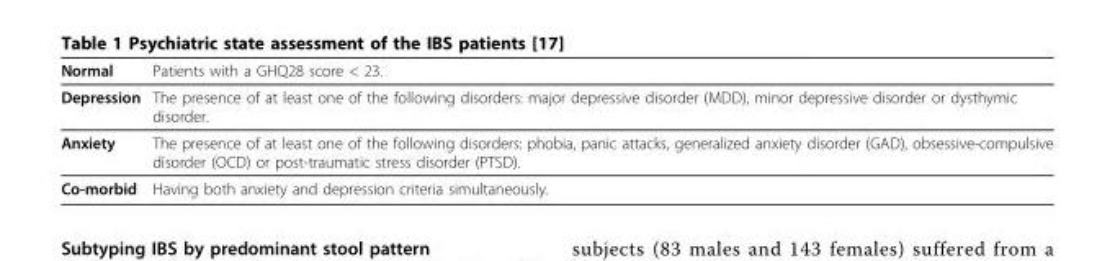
<table><thead><tr><td>Normal</td><td>Patients with a GHQ28 score &lt; 23.</td></tr></thead><tbody><tr><td>Depression</td><td>The presence of at least one of the following disorders: major depressive disorder (MDD), minor depressive disorder or dysthymic disorder.</td></tr><tr><td>Anxiety</td><td>The presence of at least one of the following disorders: phobia, panic attacks, generalized anxiety disorder (GAD), obsessive-compulsive disorder (OCD) or post-traumatic stress disorder (PTSD).</td></tr><tr><td>Co-morbid</td><td>Having both anxiety and depression criteria simultaneously.</td></tr></tbody></table>